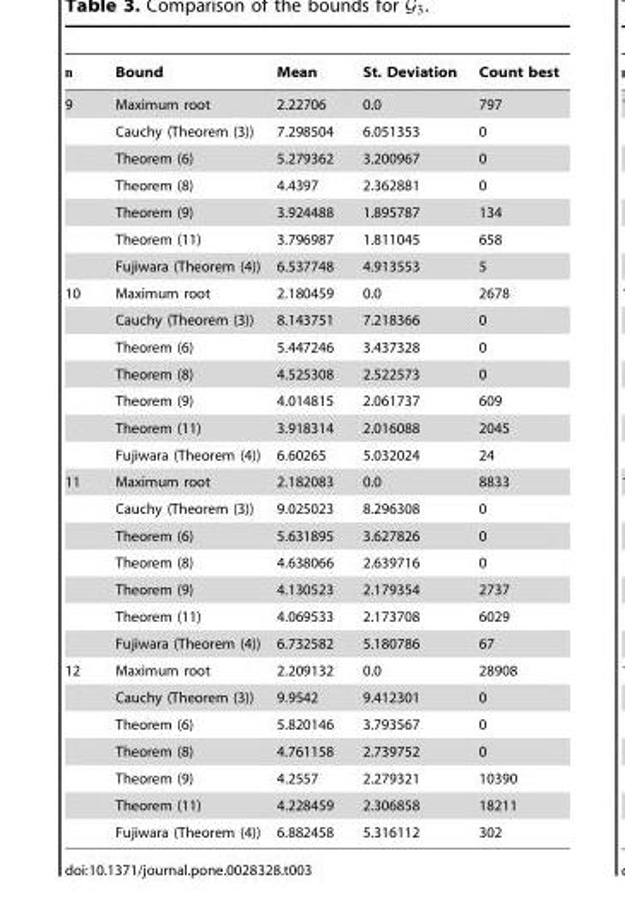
<table><thead><tr><td>n</td><td>Bound</td><td>Mean</td><td>St. Deviation</td><td>Count best</td></tr></thead><tbody><tr><td rowspan="7">9</td><td>Maximum root</td><td>2.22706</td><td>0.0</td><td>797</td></tr><tr><td>Cauchy (Theorem (3))</td><td>7.298504</td><td>6.051353</td><td>0</td></tr><tr><td>Theorem (6)</td><td>5.279362</td><td>3.200967</td><td>0</td></tr><tr><td>Theorem (8)</td><td>4.4397</td><td>2.362881</td><td>0</td></tr><tr><td>Theorem (9)</td><td>3.924488</td><td>1.895787</td><td>134</td></tr><tr><td>Theorem (11)</td><td>3.796987</td><td>1.811045</td><td>658</td></tr><tr><td>Fujiwara (Theorem (4))</td><td>6.537748</td><td>4.913553</td><td>5</td></tr><tr><td rowspan="7">10</td><td>Maximum root</td><td>2.180459</td><td>0.0</td><td>2678</td></tr><tr><td>Cauchy (Theorem (3))</td><td>8.143751</td><td>7.218366</td><td>0</td></tr><tr><td>Theorem (6)</td><td>5.447246</td><td>3.437328</td><td>0</td></tr><tr><td>Theorem (8)</td><td>4.525308</td><td>2.522573</td><td>0</td></tr><tr><td>Theorem (9)</td><td>4.014815</td><td>2.061737</td><td>609</td></tr><tr><td>Theorem (11)</td><td>3.918314</td><td>2.016088</td><td>2045</td></tr><tr><td>Fujiwara (Theorem (4))</td><td>6.60265</td><td>5.032024</td><td>24</td></tr><tr><td rowspan="7">11</td><td>Maximum root</td><td>2.182083</td><td>0.0</td><td>8833</td></tr><tr><td>Cauchy (Theorem (3))</td><td>9.025023</td><td>8.296308</td><td>0</td></tr><tr><td>Theorem (6)</td><td>5.631895</td><td>3.627826</td><td>0</td></tr><tr><td>Theorem (8)</td><td>4.638066</td><td>2.639716</td><td>0</td></tr><tr><td>Theorem (9)</td><td>4.130523</td><td>2.179354</td><td>2737</td></tr><tr><td>Theorem (11)</td><td>4.069533</td><td>2.173708</td><td>6029</td></tr><tr><td>Fujiwara (Theorem (4))</td><td>6.732582</td><td>5.180786</td><td>67</td></tr><tr><td rowspan="7">12</td><td>Maximum root</td><td>2.209132</td><td>0.0</td><td>28908</td></tr><tr><td>Cauchy (Theorem (3))</td><td>9.9542</td><td>9.412301</td><td>0</td></tr><tr><td>Theorem (6)</td><td>5.820146</td><td>3.793567</td><td>0</td></tr><tr><td>Theorem (8)</td><td>4.761158</td><td>2.739752</td><td>0</td></tr><tr><td>Theorem (9)</td><td>4.2557</td><td>2.279321</td><td>10390</td></tr><tr><td>Theorem (11)</td><td>4.228459</td><td>2.306858</td><td>18211</td></tr><tr><td>Fujiwara (Theorem (4))</td><td>6.882458</td><td>5.316112</td><td>302</td></tr></tbody></table>